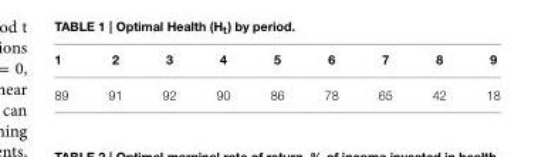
<table><thead><tr><td>1</td><td>2</td><td>3</td><td>4</td><td>5</td><td>6</td><td>7</td><td>8</td><td>9</td></tr></thead><tbody><tr><td>89</td><td>91</td><td>92</td><td>90</td><td>86</td><td>78</td><td>65</td><td>42</td><td>18</td></tr></tbody></table>